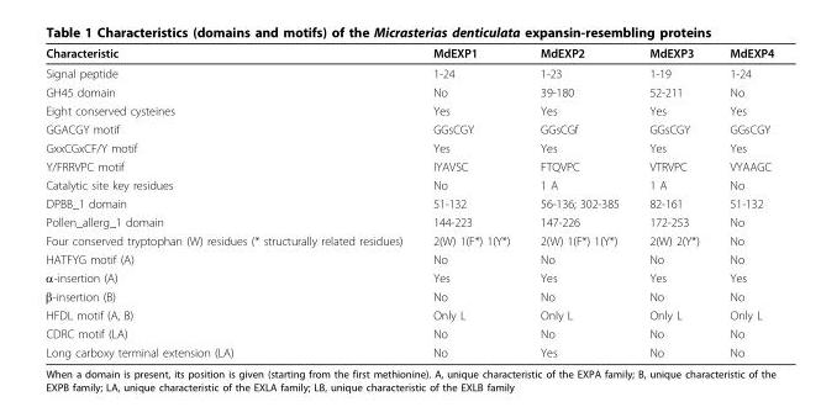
<table><thead><tr><td>Characteristic</td><td>MdEXP1</td><td>MdEXP2</td><td>MdEXP3</td><td>MdEXP4</td></tr></thead><tbody><tr><td>Signal peptide</td><td>1-24</td><td>1-23</td><td>1-19</td><td>1-24</td></tr><tr><td>GH45 domain</td><td>No</td><td>39-180</td><td>52-211</td><td>No</td></tr><tr><td>Eight conserved cysteines</td><td>Yes</td><td>Yes</td><td>Yes</td><td>Yes</td></tr><tr><td>GGACGY motif</td><td>GGsCGY</td><td>GGsCGf</td><td>GGsCGY</td><td>GGsCGY</td></tr><tr><td>GxxCGxCF/Y motif</td><td>Yes</td><td>Yes</td><td>Yes</td><td>Yes</td></tr><tr><td>Y/FRRVPC motif</td><td>IYAVSC</td><td>FTQVPC</td><td>VTRVPC</td><td>VYAAGC</td></tr><tr><td>Catalytic site key residues</td><td>No</td><td>1 A</td><td>1 A</td><td>No</td></tr><tr><td>DPBB_1 domain</td><td>51-132</td><td>56-136; 302-385</td><td>82-161</td><td>51-132</td></tr><tr><td>Pollen_allerg_1 domain</td><td>144-223</td><td>147-226</td><td>172-253</td><td>No</td></tr><tr><td>Four conserved tryptophan (W) residues (* structurally related residues)</td><td>2(W) 1(F*) 1(Y*)</td><td>2(W) 1(F*) 1(Y*)</td><td>2(W) 2(Y*)</td><td>No</td></tr><tr><td>HATFYG motif (A)</td><td>No</td><td>No</td><td>No</td><td>No</td></tr><tr><td>α-insertion (A)</td><td>Yes</td><td>Yes</td><td>Yes</td><td>Yes</td></tr><tr><td>β-insertion (B)</td><td>No</td><td>No</td><td>No</td><td>No</td></tr><tr><td>HFDL motif (A, B)</td><td>Only L</td><td>Only L</td><td>Only L</td><td>Only L</td></tr><tr><td>CDRC motif (LA)</td><td>No</td><td>No</td><td>No</td><td>No</td></tr><tr><td>Long carboxy terminal extension (LA)</td><td>No</td><td>Yes</td><td>No</td><td>No</td></tr></tbody></table>